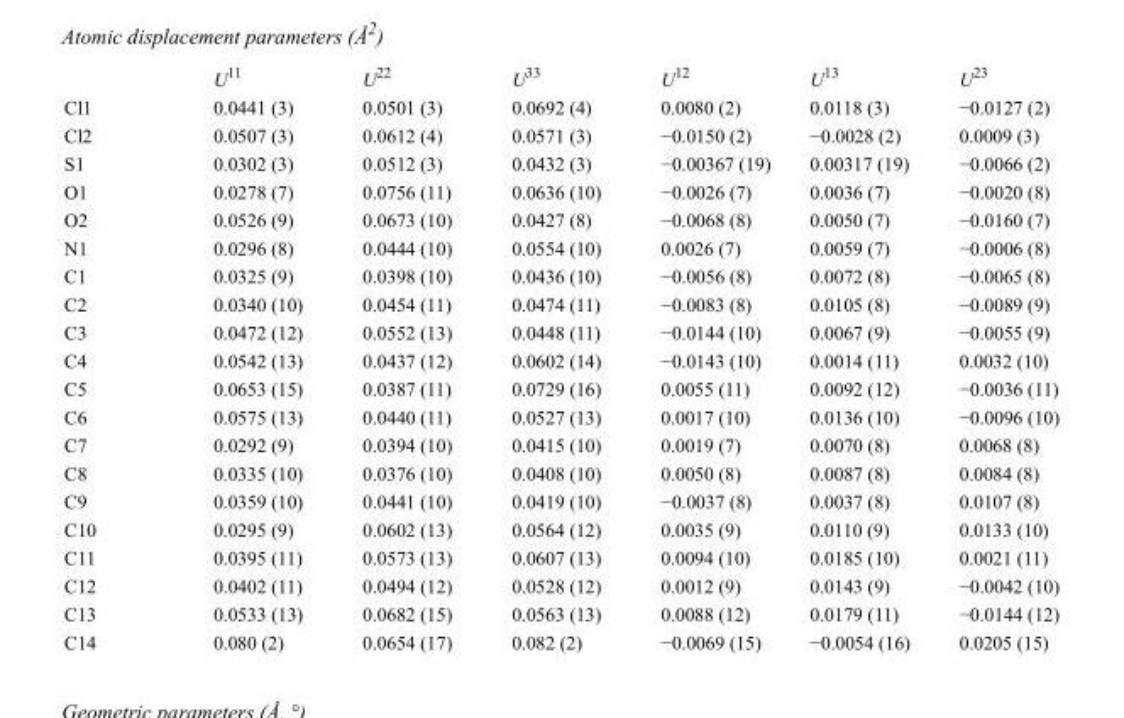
<table><thead><tr><td></td><td>U<sup>11</sup></td><td>U<sup>22</sup></td><td>U<sup>33</sup></td><td>U<sup>12</sup></td><td>U<sup>13</sup></td><td>U<sup>23</sup></td></tr></thead><tbody><tr><td>Cl1</td><td>0.0441 (3)</td><td>0.0501 (3)</td><td>0.0692 (4)</td><td>0.0080 (2)</td><td>0.0118 (3)</td><td>−0.0127 (2)</td></tr><tr><td>Cl2</td><td>0.0507 (3)</td><td>0.0612 (4)</td><td>0.0571 (3)</td><td>−0.0150 (2)</td><td>−0.0028 (2)</td><td>0.0009 (3)</td></tr><tr><td>S1</td><td>0.0302 (3)</td><td>0.0512 (3)</td><td>0.0432 (3)</td><td>−0.00367 (19)</td><td>0.00317 (19)</td><td>−0.0066 (2)</td></tr><tr><td>O1</td><td>0.0278 (7)</td><td>0.0756 (11)</td><td>0.0636 (10)</td><td>−0.0026 (7)</td><td>0.0036 (7)</td><td>−0.0020 (8)</td></tr><tr><td>O2</td><td>0.0526 (9)</td><td>0.0673 (10)</td><td>0.0427 (8)</td><td>−0.0068 (8)</td><td>0.0050 (7)</td><td>−0.0160 (7)</td></tr><tr><td>N1</td><td>0.0296 (8)</td><td>0.0444 (10)</td><td>0.0554 (10)</td><td>0.0026 (7)</td><td>0.0059 (7)</td><td>−0.0006 (8)</td></tr><tr><td>C1</td><td>0.0325 (9)</td><td>0.0398 (10)</td><td>0.0436 (10)</td><td>−0.0056 (8)</td><td>0.0072 (8)</td><td>−0.0065 (8)</td></tr><tr><td>C2</td><td>0.0340 (10)</td><td>0.0454 (11)</td><td>0.0474 (11)</td><td>−0.0083 (8)</td><td>0.0105 (8)</td><td>−0.0089 (9)</td></tr><tr><td>C3</td><td>0.0472 (12)</td><td>0.0552 (13)</td><td>0.0448 (11)</td><td>−0.0144 (10)</td><td>0.0067 (9)</td><td>−0.0055 (9)</td></tr><tr><td>C4</td><td>0.0542 (13)</td><td>0.0437 (12)</td><td>0.0602 (14)</td><td>−0.0143 (10)</td><td>0.0014 (11)</td><td>0.0032 (10)</td></tr><tr><td>C5</td><td>0.0653 (15)</td><td>0.0387 (11)</td><td>0.0729 (16)</td><td>0.0055 (11)</td><td>0.0092 (12)</td><td>−0.0036 (11)</td></tr><tr><td>C6</td><td>0.0575 (13)</td><td>0.0440 (11)</td><td>0.0527 (13)</td><td>0.0017 (10)</td><td>0.0136 (10)</td><td>−0.0096 (10)</td></tr><tr><td>C7</td><td>0.0292 (9)</td><td>0.0394 (10)</td><td>0.0415 (10)</td><td>0.0019 (7)</td><td>0.0070 (8)</td><td>0.0068 (8)</td></tr><tr><td>C8</td><td>0.0335 (10)</td><td>0.0376 (10)</td><td>0.0408 (10)</td><td>0.0050 (8)</td><td>0.0087 (8)</td><td>0.0084 (8)</td></tr><tr><td>C9</td><td>0.0359 (10)</td><td>0.0441 (10)</td><td>0.0419 (10)</td><td>−0.0037 (8)</td><td>0.0037 (8)</td><td>0.0107 (8)</td></tr><tr><td>C10</td><td>0.0295 (9)</td><td>0.0602 (13)</td><td>0.0564 (12)</td><td>0.0035 (9)</td><td>0.0110 (9)</td><td>0.0133 (10)</td></tr><tr><td>C11</td><td>0.0395 (11)</td><td>0.0573 (13)</td><td>0.0607 (13)</td><td>0.0094 (10)</td><td>0.0185 (10)</td><td>0.0021 (11)</td></tr><tr><td>C12</td><td>0.0402 (11)</td><td>0.0494 (12)</td><td>0.0528 (12)</td><td>0.0012 (9)</td><td>0.0143 (9)</td><td>−0.0042 (10)</td></tr><tr><td>C13</td><td>0.0533 (13)</td><td>0.0682 (15)</td><td>0.0563 (13)</td><td>0.0088 (12)</td><td>0.0179 (11)</td><td>−0.0144 (12)</td></tr><tr><td>C14</td><td>0.080 (2)</td><td>0.0654 (17)</td><td>0.082 (2)</td><td>−0.0069 (15)</td><td>−0.0054 (16)</td><td>0.0205 (15)</td></tr></tbody></table>